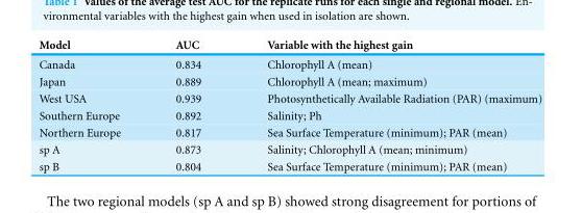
<table><thead><tr><td>Model</td><td>AUC</td><td>Variable with the highest gain</td></tr></thead><tbody><tr><td>Canada</td><td>0.834</td><td>Chlorophyll A (mean)</td></tr><tr><td>Japan</td><td>0.889</td><td>Chlorophyll A (mean; maximum)</td></tr><tr><td>West USA</td><td>0.939</td><td>Photosynthetically Available Radiation (PAR) (maximum)</td></tr><tr><td>Southern Europe</td><td>0.892</td><td>Salinity; Ph</td></tr><tr><td>Northern Europe</td><td>0.817</td><td>Sea Surface Temperature (minimum); PAR (mean)</td></tr><tr><td>sp A</td><td>0.873</td><td>Salinity; Chlorophyll A (mean; minimum)</td></tr><tr><td>sp B</td><td>0.804</td><td>Sea Surface Temperature (minimum); PAR (mean)</td></tr></tbody></table>